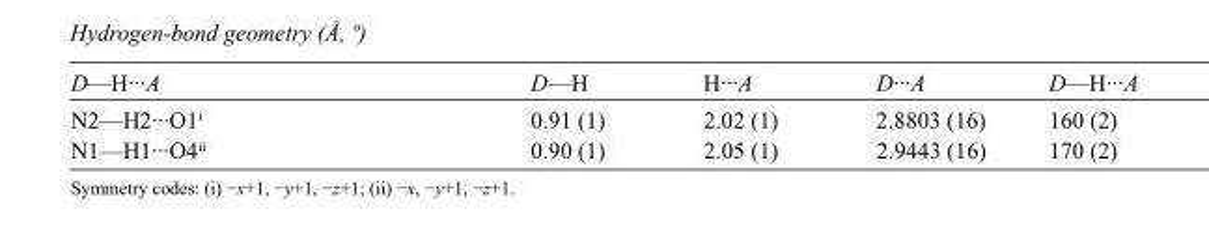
<table><tbody><tr><td>D—H···A</td><td>D—H</td><td>H···A</td><td>D···A</td><td>D—H···A</td></tr><tr><td>N2—H2···O1<sup>i</sup></td><td>0.91 (1)</td><td>2.02 (1)</td><td>2.8803 (16)</td><td>160 (2)</td></tr><tr><td>N1—H1···O4<sup>ii</sup></td><td>0.90 (1)</td><td>2.05 (1)</td><td>2.9443 (16)</td><td>170 (2)</td></tr></tbody></table>